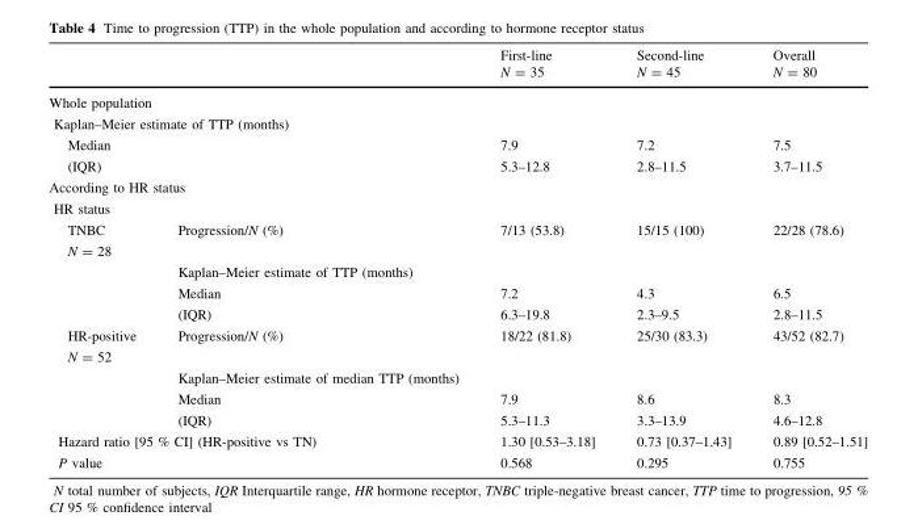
<table><thead><tr><td rowspan="2"></td><td rowspan="2"></td><td rowspan="2">First-line N = 35</td><td rowspan="2">Second-line N = 45</td><td rowspan="2">Overall N = 80</td></tr><tr></tr></thead><tbody><tr><td colspan="5">Whole population</td></tr><tr><td colspan="5">Kaplan–Meier estimate of TTP (months)</td></tr><tr><td>Median</td><td></td><td>7.9</td><td>7.2</td><td>7.5</td></tr><tr><td>(IQR)</td><td></td><td>5.3–12.8</td><td>2.8–11.5</td><td>3.7–11.5</td></tr><tr><td colspan="5">According to HR status</td></tr><tr><td colspan="5">HR status</td></tr><tr><td rowspan="4">TNBC N = 28</td><td>Progression/N (%)</td><td>7/13 (53.8)</td><td>15/15 (100)</td><td>22/28 (78.6)</td></tr><tr><td>Kaplan–Meier estimate of TTP (months)</td><td></td><td></td><td></td></tr><tr><td>Median</td><td>7.2</td><td>4.3</td><td>6.5</td></tr><tr><td>(IQR)</td><td>6.3–19.8</td><td>2.3–9.5</td><td>2.8–11.5</td></tr><tr><td rowspan="4">HR-positive N = 52</td><td>Progression/N (%)</td><td>18/22 (81.8)</td><td>25/30 (83.3)</td><td>43/52 (82.7)</td></tr><tr><td>Kaplan–Meier estimate of median TTP (months)</td><td></td><td></td><td></td></tr><tr><td>Median</td><td>7.9</td><td>8.6</td><td>8.3</td></tr><tr><td>(IQR)</td><td>5.3–11.3</td><td>3.3–13.9</td><td>4.6–12.8</td></tr><tr><td colspan="2">Hazard ratio [95 % CI] (HR-positive vs TN)</td><td>1.30 [0.53–3.18]</td><td>0.73 [0.37–1.43]</td><td>0.89 [0.52–1.51]</td></tr><tr><td colspan="2">P value</td><td>0.568</td><td>0.295</td><td>0.755</td></tr></tbody></table>